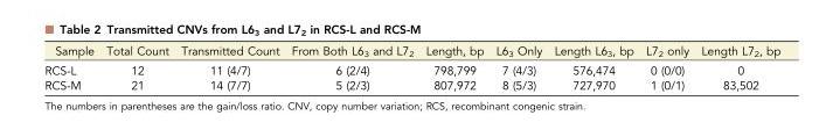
<table><thead><tr><td>Sample</td><td>Total Count</td><td>Transmitted Count</td><td>From Both L6<sub>3</sub> and L7<sub>2</sub></td><td>Length, bp</td><td>L6<sub>3</sub> Only</td><td>Length L6<sub>3</sub>, bp</td><td>L7<sub>2</sub> only</td><td>Length L7<sub>2</sub>, bp</td></tr></thead><tbody><tr><td>RCS-L</td><td>12</td><td>11 (4/7)</td><td>6 (2/4)</td><td>798,799</td><td>7 (4/3)</td><td>576,474</td><td>0 (0/0)</td><td>0</td></tr><tr><td>RCS-M</td><td>21</td><td>14 (7/7)</td><td>5 (2/3)</td><td>807,972</td><td>8 (5/3)</td><td>727,970</td><td>1 (0/1)</td><td>83,502</td></tr></tbody></table>